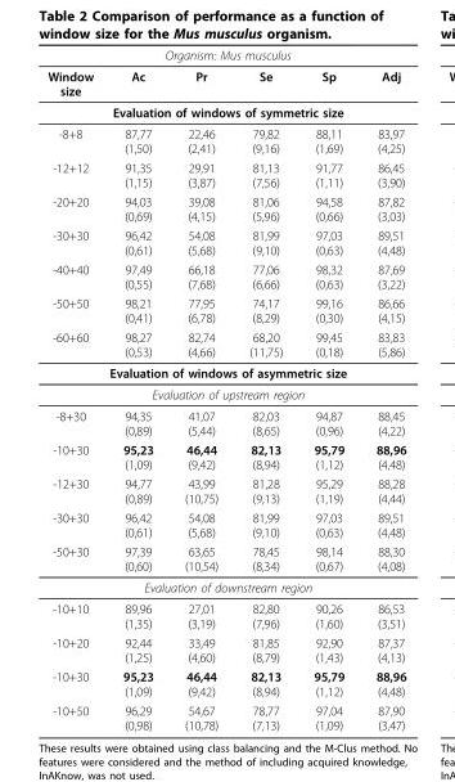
<table><thead><tr><td colspan="6">Organism: Mus musculus</td></tr><tr><td>Window size</td><td>Ac</td><td>Pr</td><td>Se</td><td>Sp</td><td>Adj</td></tr></thead><tbody><tr><td colspan="6">Evaluation of windows of symmetric size</td></tr><tr><td>-8+8</td><td>87,77 (1,50)</td><td>22,46 (2,41)</td><td>79,82 (9,16)</td><td>88,11 (1,69)</td><td>83,97 (4,25)</td></tr><tr><td>-12+12</td><td>91,35 (1,15)</td><td>29,91 (3,87)</td><td>81,13 (7,56)</td><td>91,77 (1,11)</td><td>86,45 (3,90)</td></tr><tr><td>-20+20</td><td>94,03 (0,69)</td><td>39,08 (4,15)</td><td>81,06 (5,96)</td><td>94,58 (0,66)</td><td>87,82 (3,03)</td></tr><tr><td>-30+30</td><td>96,42 (0,61)</td><td>54,08 (5,68)</td><td>81,99 (9,10)</td><td>97,03 (0,63)</td><td>89,51 (4,48)</td></tr><tr><td>-40+40</td><td>97,49 (0,55)</td><td>66,18 (7,68)</td><td>77,06 (6,66)</td><td>98,32 (0,63)</td><td>87,69 (3,22)</td></tr><tr><td>-50+50</td><td>98,21 (0,41)</td><td>77,95 (6,78)</td><td>74,17 (8,29)</td><td>99,16 (0,30)</td><td>86,66 (4,15)</td></tr><tr><td>-60+60</td><td>98,27 (0,53)</td><td>82,74 (4,66)</td><td>68,20 (11,75)</td><td>99,45 (0,18)</td><td>83,83 (5,86)</td></tr><tr><td colspan="6">Evaluation of windows of asymmetric size</td></tr><tr><td colspan="6">Evaluation of upstream region</td></tr><tr><td>-8+30</td><td>94,35 (0,89)</td><td>41,07 (5,44)</td><td>82,03 (8,65)</td><td>94,87 (0,96)</td><td>88,45 (4,22)</td></tr><tr><td>-10+30</td><td>95,23 (1,09)</td><td>46,44 (9,42)</td><td>82,13 (8,94)</td><td>95,79 (1,12)</td><td>88,96 (4,48)</td></tr><tr><td>-12+30</td><td>94,77 (0,89)</td><td>43,99 (10,75)</td><td>81,28 (9,13)</td><td>95,29 (1,19)</td><td>88,28 (4,44)</td></tr><tr><td>-30+30</td><td>96,42 (0,61)</td><td>54,08 (5,68)</td><td>81,99 (9,10)</td><td>97,03 (0,63)</td><td>89,51 (4,48)</td></tr><tr><td>-50+30</td><td>97,39 (0,60)</td><td>63,65 (10,54)</td><td>78,45 (8,34)</td><td>98,14 (0,67)</td><td>88,30 (4,08)</td></tr><tr><td colspan="6">Evaluation of downstream region</td></tr><tr><td>-10+10</td><td>89,96 (1,35)</td><td>27,01 (3,19)</td><td>82,80 (7,96)</td><td>90,26 (1,60)</td><td>86,53 (3,51)</td></tr><tr><td>-10+20</td><td>92,44 (1,25)</td><td>33,49 (4,60)</td><td>81,85 (8,79)</td><td>92,90 (1,43)</td><td>87,37 (4,13)</td></tr><tr><td>-10+30</td><td>95,23 (1,09)</td><td>46,44 (9,42)</td><td>82,13 (8,94)</td><td>95,79 (1,12)</td><td>88,96 (4,48)</td></tr><tr><td>-10+50</td><td>96,29 (0,98)</td><td>54,67 (10,78)</td><td>78,77 (7,13)</td><td>97,04 (1,09)</td><td>87,90 (3,47)</td></tr></tbody></table>